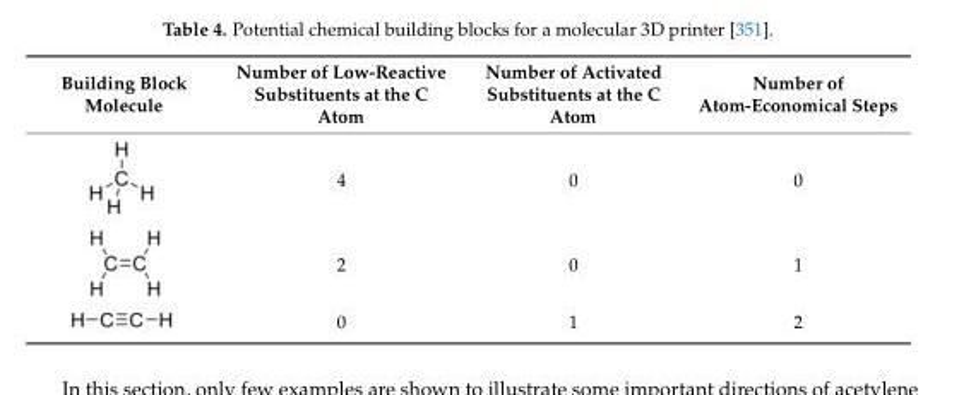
<table><thead><tr><td>Building Block Molecule</td><td>Number of Low-Reactive Substituents at the C Atom</td><td>Number of Activated Substituents at the C Atom</td><td>Number of Atom-Economical Steps</td></tr></thead><tbody><tr><td></td><td>4</td><td>0</td><td>0</td></tr><tr><td></td><td>2</td><td>0</td><td>1</td></tr><tr><td></td><td>0</td><td>1</td><td>2</td></tr></tbody></table>